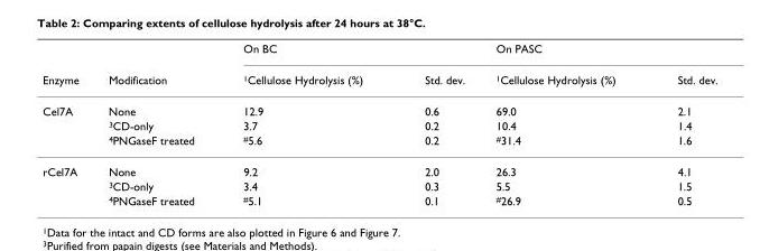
<table><thead><tr><td rowspan="2">Enzyme</td><td rowspan="2">Modification</td><td rowspan="2">On BC <sup>1</sup>Cellulose Hydrolysis (%)</td><td rowspan="2">Std. dev.</td><td rowspan="2">On PASC <sup>1</sup>Cellulose Hydrolysis (%)</td><td rowspan="2">Std. dev.</td></tr><tr></tr></thead><tbody><tr><td rowspan="3">Cel7A</td><td>None</td><td>12.9</td><td>0.6</td><td>69.0</td><td>2.1</td></tr><tr><td><sup>3</sup>CD-only</td><td>3.7</td><td>0.2</td><td>10.4</td><td>1.4</td></tr><tr><td><sup>4</sup>PNGaseF treated</td><td><sup>#</sup>5.6</td><td>0.2</td><td><sup>#</sup>31.4</td><td>1.6</td></tr><tr><td rowspan="3">rCel7A</td><td>None</td><td>9.2</td><td>2.0</td><td>26.3</td><td>4.1</td></tr><tr><td><sup>3</sup>CD-only</td><td>3.4</td><td>0.3</td><td>5.5</td><td>1.5</td></tr><tr><td><sup>4</sup>PNGaseF treated</td><td><sup>#</sup>5.1</td><td>0.1</td><td><sup>#</sup>26.9</td><td>0.5</td></tr></tbody></table>